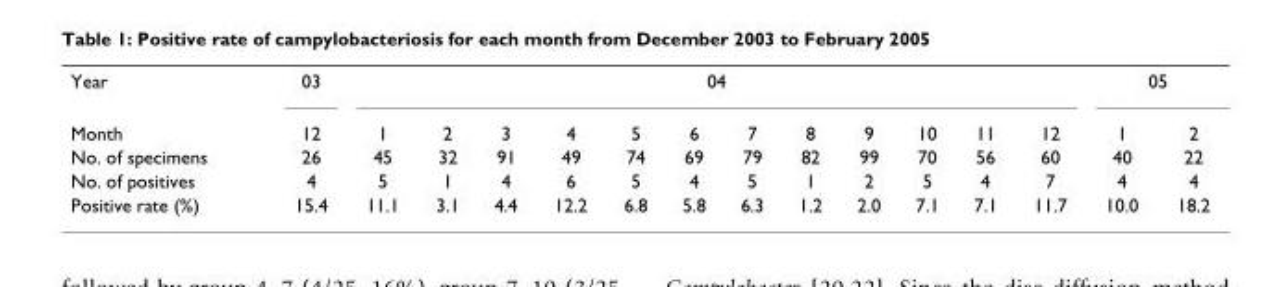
<table><tbody><tr><td>Year</td><td>03</td><td colspan="12">04</td><td colspan="2">05</td></tr><tr><td>Month</td><td>12</td><td>1</td><td>2</td><td>3</td><td>4</td><td>5</td><td>6</td><td>7</td><td>8</td><td>9</td><td>10</td><td>11</td><td>12</td><td>1</td><td>2</td></tr><tr><td>No. of specimens</td><td>26</td><td>45</td><td>32</td><td>91</td><td>49</td><td>74</td><td>69</td><td>79</td><td>82</td><td>99</td><td>70</td><td>56</td><td>60</td><td>40</td><td>22</td></tr><tr><td>No. of positives</td><td>4</td><td>5</td><td>1</td><td>4</td><td>6</td><td>5</td><td>4</td><td>5</td><td>1</td><td>2</td><td>5</td><td>4</td><td>7</td><td>4</td><td>4</td></tr><tr><td>Positive rate (%)</td><td>15.4</td><td>11.1</td><td>3.1</td><td>4.4</td><td>12.2</td><td>6.8</td><td>5.8</td><td>6.3</td><td>1.2</td><td>2.0</td><td>7.1</td><td>7.1</td><td>11.7</td><td>10.0</td><td>18.2</td></tr></tbody></table>